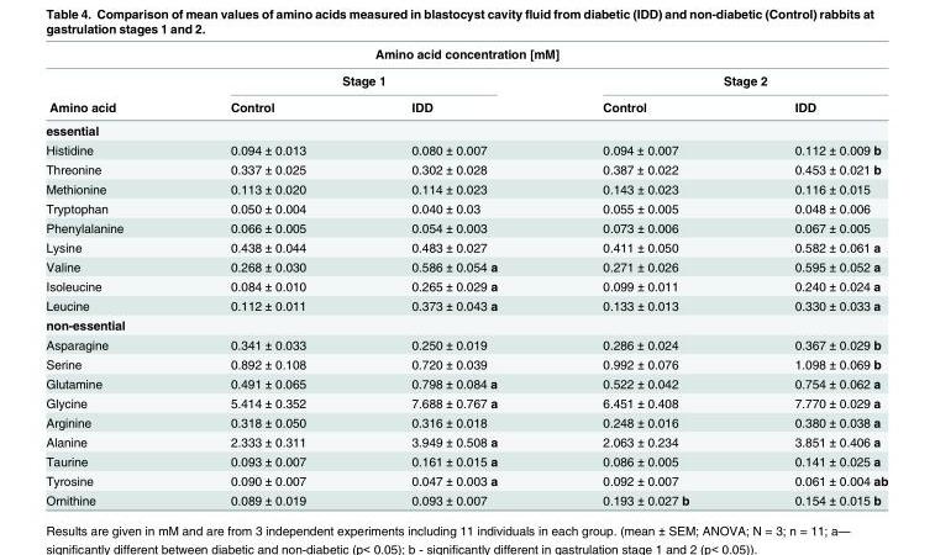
<table><thead><tr><td colspan="5">Amino acid concentration [mM]</td></tr><tr><td rowspan="2">Amino acid</td><td colspan="2">Stage 1</td><td colspan="2">Stage 2</td></tr><tr><td>Control</td><td>IDD</td><td>Control</td><td>IDD</td></tr></thead><tbody><tr><td colspan="5">essential</td></tr><tr><td>Histidine</td><td>0.094 ± 0.013</td><td>0.080 ± 0.007</td><td>0.094 ± 0.007</td><td>0.112 ± 0.009 b</td></tr><tr><td>Threonine</td><td>0.337 ± 0.025</td><td>0.302 ± 0.028</td><td>0.387 ± 0.022</td><td>0.453 ± 0.021 b</td></tr><tr><td>Methionine</td><td>0.113 ± 0.020</td><td>0.114 ± 0.023</td><td>0.143 ± 0.023</td><td>0.116 ± 0.015</td></tr><tr><td>Tryptophan</td><td>0.050 ± 0.004</td><td>0.040 ± 0.03</td><td>0.055 ± 0.005</td><td>0.048 ± 0.006</td></tr><tr><td>Phenylalanine</td><td>0.066 ± 0.005</td><td>0.054 ± 0.003</td><td>0.073 ± 0.006</td><td>0.067 ± 0.005</td></tr><tr><td>Lysine</td><td>0.438 ± 0.044</td><td>0.483 ± 0.027</td><td>0.411 ± 0.050</td><td>0.582 ± 0.061 a</td></tr><tr><td>Valine</td><td>0.268 ± 0.030</td><td>0.586 ± 0.054 a</td><td>0.271 ± 0.026</td><td>0.595 ± 0.052 a</td></tr><tr><td>Isoleucine</td><td>0.084 ± 0.010</td><td>0.265 ± 0.029 a</td><td>0.099 ± 0.011</td><td>0.240 ± 0.024 a</td></tr><tr><td>Leucine</td><td>0.112 ± 0.011</td><td>0.373 ± 0.043 a</td><td>0.133 ± 0.013</td><td>0.330 ± 0.033 a</td></tr><tr><td colspan="5">non-essential</td></tr><tr><td>Asparagine</td><td>0.341 ± 0.033</td><td>0.250 ± 0.019</td><td>0.286 ± 0.024</td><td>0.367 ± 0.029 b</td></tr><tr><td>Serine</td><td>0.892 ± 0.108</td><td>0.720 ± 0.039</td><td>0.992 ± 0.076</td><td>1.098 ± 0.069 b</td></tr><tr><td>Glutamine</td><td>0.491 ± 0.065</td><td>0.798 ± 0.084 a</td><td>0.522 ± 0.042</td><td>0.754 ± 0.062 a</td></tr><tr><td>Glycine</td><td>5.414 ± 0.352</td><td>7.688 ± 0.767 a</td><td>6.451 ± 0.408</td><td>7.770 ± 0.029 a</td></tr><tr><td>Arginine</td><td>0.318 ± 0.050</td><td>0.316 ± 0.018</td><td>0.248 ± 0.016</td><td>0.380 ± 0.038 a</td></tr><tr><td>Alanine</td><td>2.333 ± 0.311</td><td>3.949 ± 0.508 a</td><td>2.063 ± 0.234</td><td>3.851 ± 0.406 a</td></tr><tr><td>Taurine</td><td>0.093 ± 0.007</td><td>0.161 ± 0.015 a</td><td>0.086 ± 0.005</td><td>0.141 ± 0.025 a</td></tr><tr><td>Tyrosine</td><td>0.090 ± 0.007</td><td>0.047 ± 0.003 a</td><td>0.092 ± 0.007</td><td>0.061 ± 0.004 ab</td></tr><tr><td>Ornithine</td><td>0.089 ± 0.019</td><td>0.093 ± 0.007</td><td>0.193 ± 0.027 b</td><td>0.154 ± 0.015 b</td></tr></tbody></table>